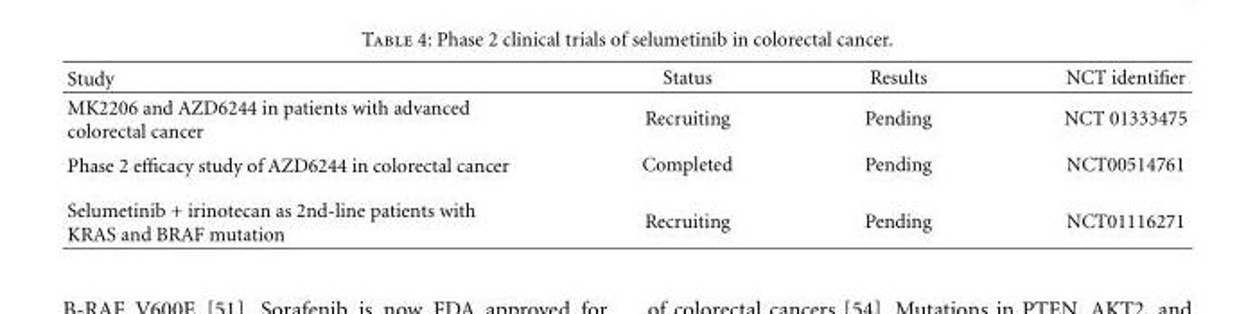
<table><thead><tr><td>Study</td><td>Status</td><td>Results</td><td>NCT identifier</td></tr></thead><tbody><tr><td>MK2206 and AZD6244 in patients with advanced colorectal cancer</td><td>Recruiting</td><td>Pending</td><td>NCT 01333475</td></tr><tr><td>Phase 2 efficacy study of AZD6244 in colorectal cancer</td><td>Completed</td><td>Pending</td><td>NCT00514761</td></tr><tr><td>Selumetinib + irinotecan as 2nd-line patients with KRAS and BRAF mutation</td><td>Recruiting</td><td>Pending</td><td>NCT01116271</td></tr></tbody></table>